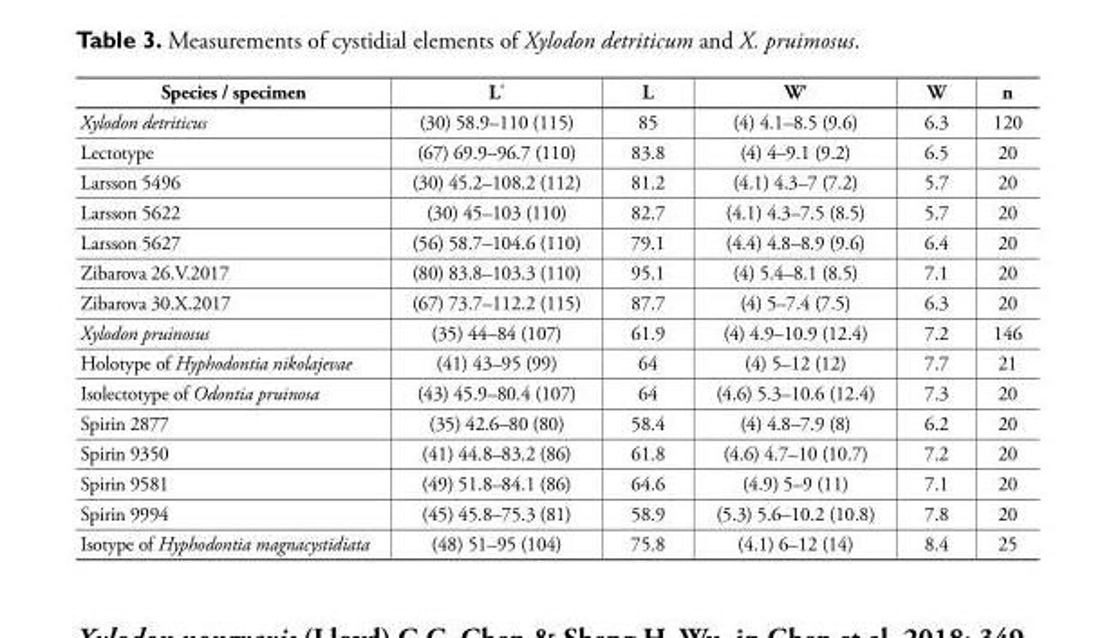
<table><thead><tr><td>Species / specimen</td><td>L&#x27;</td><td>L</td><td>W&#x27;</td><td>W</td><td>n</td></tr></thead><tbody><tr><td>Xylodon detriticus</td><td>(30) 58.9–110 (115)</td><td>85</td><td>(4) 4.1–8.5 (9.6)</td><td>6.3</td><td>120</td></tr><tr><td>Lectotype</td><td>(67) 69.9–96.7 (110)</td><td>83.8</td><td>(4) 4–9.1 (9.2)</td><td>6.5</td><td>20</td></tr><tr><td>Larsson 5496</td><td>(30) 45.2–108.2 (112)</td><td>81.2</td><td>(4.1) 4.3–7 (7.2)</td><td>5.7</td><td>20</td></tr><tr><td>Larsson 5622</td><td>(30) 45–103 (110)</td><td>82.7</td><td>(4.1) 4.3–7.5 (8.5)</td><td>5.7</td><td>20</td></tr><tr><td>Larsson 5627</td><td>(56) 58.7–104.6 (110)</td><td>79.1</td><td>(4.4) 4.8–8.9 (9.6)</td><td>6.4</td><td>20</td></tr><tr><td>Zibarova 26.V.2017</td><td>(80) 83.8–103.3 (110)</td><td>95.1</td><td>(4) 5.4–8.1 (8.5)</td><td>7.1</td><td>20</td></tr><tr><td>Zibarova 30.X.2017</td><td>(67) 73.7–112.2 (115)</td><td>87.7</td><td>(4) 5–7.4 (7.5)</td><td>6.3</td><td>20</td></tr><tr><td>Xylodon pruinosus</td><td>(35) 44–84 (107)</td><td>61.9</td><td>(4) 4.9–10.9 (12.4)</td><td>7.2</td><td>146</td></tr><tr><td>Holotype of Hyphodontia nikolajevae</td><td>(41) 43–95 (99)</td><td>64</td><td>(4) 5–12 (12)</td><td>7.7</td><td>21</td></tr><tr><td>Isolectotype of Odontia pruinosa</td><td>(43) 45.9–80.4 (107)</td><td>64</td><td>(4.6) 5.3–10.6 (12.4)</td><td>7.3</td><td>20</td></tr><tr><td>Spirin 2877</td><td>(35) 42.6–80 (80)</td><td>58.4</td><td>(4) 4.8–7.9 (8)</td><td>6.2</td><td>20</td></tr><tr><td>Spirin 9350</td><td>(41) 44.8–83.2 (86)</td><td>61.8</td><td>(4.6) 4.7–10 (10.7)</td><td>7.2</td><td>20</td></tr><tr><td>Spirin 9581</td><td>(49) 51.8–84.1 (86)</td><td>64.6</td><td>(4.9) 5–9 (11)</td><td>7.1</td><td>20</td></tr><tr><td>Spirin 9994</td><td>(45) 45.8–75.3 (81)</td><td>58.9</td><td>(5.3) 5.6–10.2 (10.8)</td><td>7.8</td><td>20</td></tr><tr><td>Isotype of Hyphodontia magnacystidiata</td><td>(48) 51–95 (104)</td><td>75.8</td><td>(4.1) 6–12 (14)</td><td>8.4</td><td>25</td></tr></tbody></table>